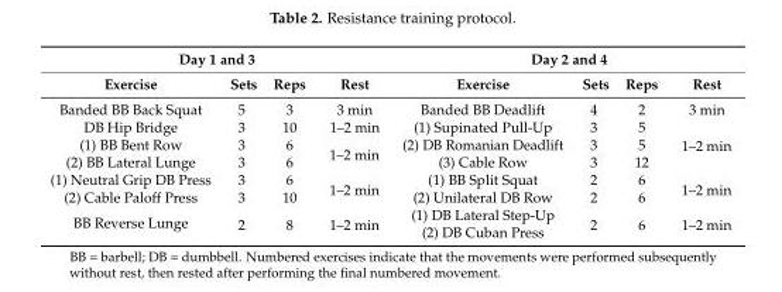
<table><thead><tr><td colspan="4">Day 1 and 3</td><td colspan="4">Day 2 and 4</td></tr><tr><td>Exercise</td><td>Sets</td><td>Reps</td><td>Rest</td><td>Exercise</td><td>Sets</td><td>Reps</td><td>Rest</td></tr></thead><tbody><tr><td>Banded BB Back Squat</td><td>5</td><td>3</td><td>3 min</td><td>Banded BB Deadlift</td><td>4</td><td>2</td><td>3 min</td></tr><tr><td>DB Hip Bridge</td><td>3</td><td>10</td><td>1–2 min</td><td>(1) Supinated Pull-Up</td><td>3</td><td>5</td><td rowspan="3">1–2 min</td></tr><tr><td>(1) BB Bent Row</td><td>3</td><td>6</td><td rowspan="2">1–2 min</td><td>(2) DB Romanian Deadlift</td><td>3</td><td>5</td></tr><tr><td>(2) BB Lateral Lunge</td><td>3</td><td>6</td><td>(3) Cable Row</td><td>3</td><td>12</td></tr><tr><td>(1) Neutral Grip DB Press</td><td>3</td><td>6</td><td rowspan="2">1–2 min</td><td>(1) BB Split Squat</td><td>2</td><td>6</td><td rowspan="2">1–2 min</td></tr><tr><td>(2) Cable Paloff Press</td><td>3</td><td>10</td><td>(2) Unilateral DB Row</td><td>2</td><td>6</td></tr><tr><td rowspan="2">BB Reverse Lunge</td><td rowspan="2">2</td><td rowspan="2">8</td><td rowspan="2">1–2 min</td><td>(1) DB Lateral Step-Up</td><td rowspan="2">2</td><td rowspan="2">6</td><td rowspan="2">1–2 min</td></tr><tr><td>(2) DB Cuban Press</td></tr></tbody></table>